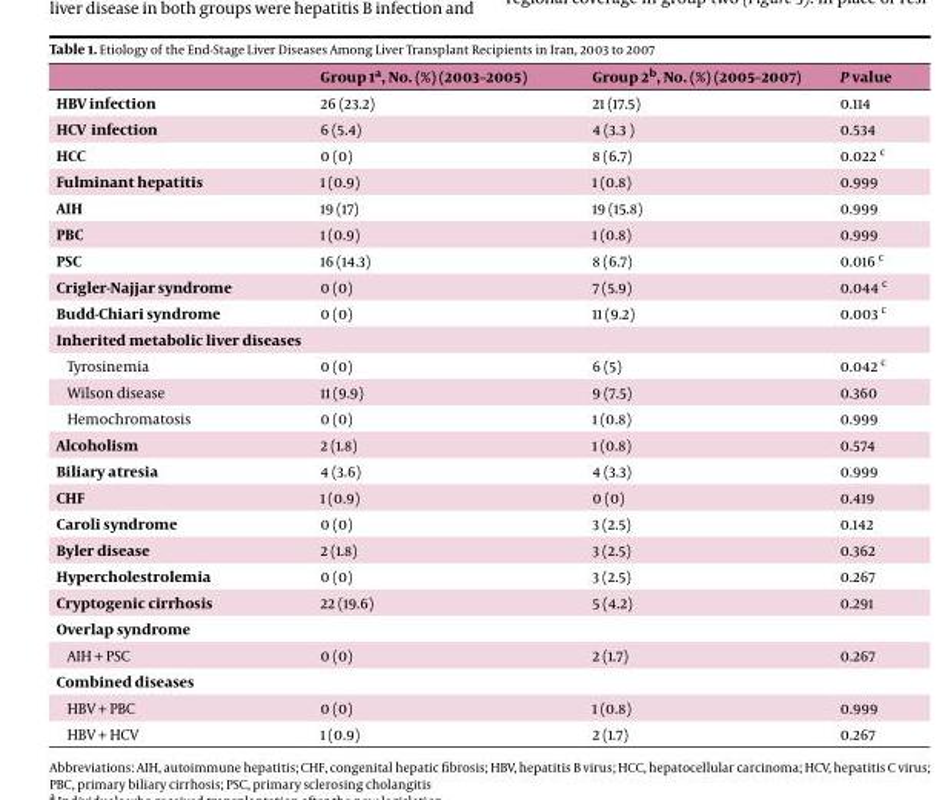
<table><thead><tr><td></td><td>Group 1<sup>a</sup>, No. (%) (2003–2005)</td><td>Group 2<sup>b</sup>, No. (%) (2005–2007)</td><td>P value</td></tr></thead><tbody><tr><td>HBV infection</td><td>26 (23.2)</td><td>21 (17.5)</td><td>0.114</td></tr><tr><td>HCV infection</td><td>6 (5.4)</td><td>4 (3.3 )</td><td>0.534</td></tr><tr><td>HCC</td><td>0 (0)</td><td>8 (6.7)</td><td>0.022 c</td></tr><tr><td>Fulminant hepatitis</td><td>1 (0.9)</td><td>1 (0.8)</td><td>0.999</td></tr><tr><td>AIH</td><td>19 (17)</td><td>19 (15.8)</td><td>0.999</td></tr><tr><td>PBC</td><td>1 (0.9)</td><td>1 (0.8)</td><td>0.999</td></tr><tr><td>PSC</td><td>16 (14.3)</td><td>8 (6.7)</td><td>0.016 c</td></tr><tr><td>Crigler-Najjar syndrome</td><td>0 (0)</td><td>7 (5.9)</td><td>0.044 c</td></tr><tr><td>Budd-Chiari syndrome</td><td>0 (0)</td><td>11 (9.2)</td><td>0.003 c</td></tr><tr><td colspan="4">Inherited metabolic liver diseases</td></tr><tr><td>Tyrosinemia</td><td>0 (0)</td><td>6 (5)</td><td>0.042 c</td></tr><tr><td>Wilson disease</td><td>11 (9.9)</td><td>9 (7.5)</td><td>0.360</td></tr><tr><td>Hemochromatosis</td><td>0 (0)</td><td>1 (0.8)</td><td>0.999</td></tr><tr><td>Alcoholism</td><td>2 (1.8)</td><td>1 (0.8)</td><td>0.574</td></tr><tr><td>Biliary atresia</td><td>4 (3.6)</td><td>4 (3.3)</td><td>0.999</td></tr><tr><td>CHF</td><td>1 (0.9)</td><td>0 (0)</td><td>0.419</td></tr><tr><td>Caroli syndrome</td><td>0 (0)</td><td>3 (2.5)</td><td>0.142</td></tr><tr><td>Byler disease</td><td>2 (1.8)</td><td>3 (2.5)</td><td>0.362</td></tr><tr><td>Hypercholestrolemia</td><td>0 (0)</td><td>3 (2.5)</td><td>0.267</td></tr><tr><td>Cryptogenic cirrhosis</td><td>22 (19.6)</td><td>5 (4.2)</td><td>0.291</td></tr><tr><td colspan="4">Overlap syndrome</td></tr><tr><td>AIH + PSC</td><td>0 (0)</td><td>2 (1.7)</td><td>0.267</td></tr><tr><td colspan="4">Combined diseases</td></tr><tr><td>HBV + PBC</td><td>0 (0)</td><td>1 (0.8)</td><td>0.999</td></tr><tr><td>HBV + HCV</td><td>1 (0.9)</td><td>2 (1.7)</td><td>0.267</td></tr></tbody></table>